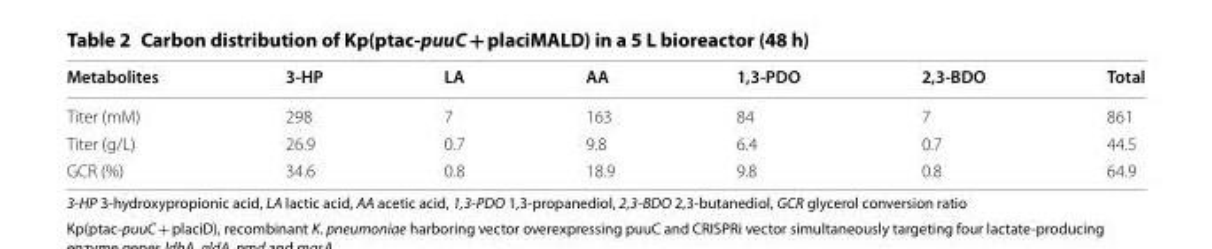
<table><thead><tr><td>Metabolites</td><td>3‑HP</td><td>LA</td><td>AA</td><td>1,3‑PDO</td><td>2,3‑BDO</td><td>Total</td></tr></thead><tbody><tr><td>Titer (mM)</td><td>298</td><td>7</td><td>163</td><td>84</td><td>7</td><td>861</td></tr><tr><td>Titer (g/L)</td><td>26.9</td><td>0.7</td><td>9.8</td><td>6.4</td><td>0.7</td><td>44.5</td></tr><tr><td>GCR (%)</td><td>34.6</td><td>0.8</td><td>18.9</td><td>9.8</td><td>0.8</td><td>64.9</td></tr></tbody></table>